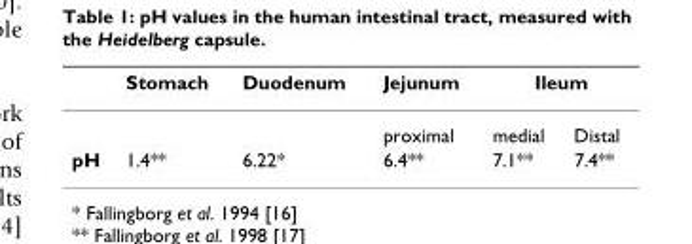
<table><thead><tr><td rowspan="2"></td><td rowspan="2">Stomach</td><td rowspan="2">Duodenum</td><td rowspan="2">Jejunum proximal</td><td colspan="2">Ileum</td></tr><tr><td>medial</td><td>Distal</td></tr></thead><tbody><tr><td>pH</td><td>1.4**</td><td>6.22*</td><td>6.4**</td><td>7.1**</td><td>7.4**</td></tr></tbody></table>